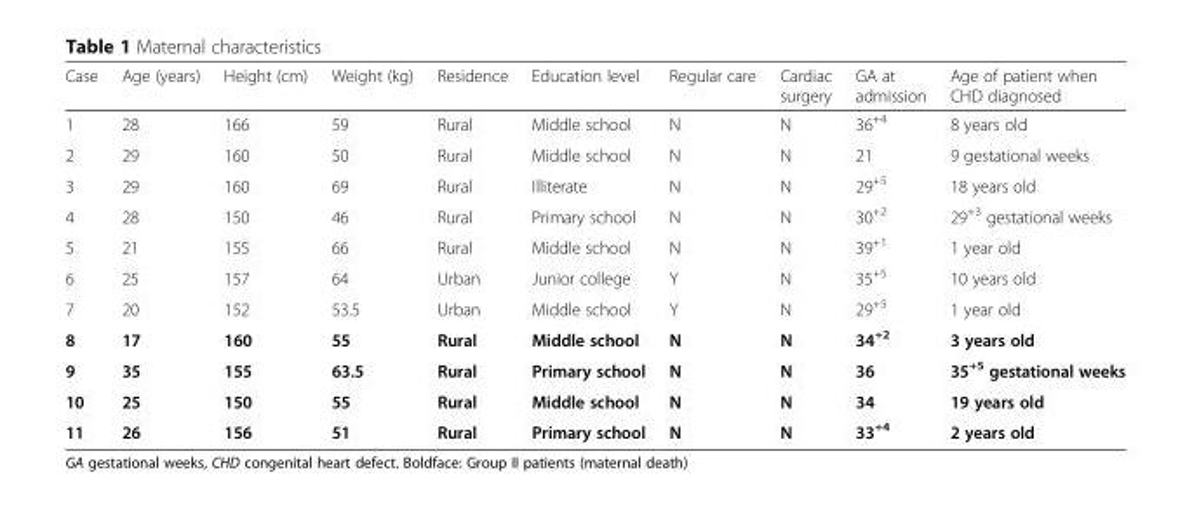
<table><thead><tr><td>Case</td><td>Age (years)</td><td>Height (cm)</td><td>Weight (kg)</td><td>Residence</td><td>Education level</td><td>Regular care</td><td>Cardiac surgery</td><td>GA at admission</td><td>Age of patient when CHD diagnosed</td></tr></thead><tbody><tr><td>1</td><td>28</td><td>166</td><td>59</td><td>Rural</td><td>Middle school</td><td>N</td><td>N</td><td>36<sup>+4</sup></td><td>8 years old</td></tr><tr><td>2</td><td>29</td><td>160</td><td>50</td><td>Rural</td><td>Middle school</td><td>N</td><td>N</td><td>21</td><td>9 gestational weeks</td></tr><tr><td>3</td><td>29</td><td>160</td><td>69</td><td>Rural</td><td>Illiterate</td><td>N</td><td>N</td><td>29<sup>+5</sup></td><td>18 years old</td></tr><tr><td>4</td><td>28</td><td>150</td><td>46</td><td>Rural</td><td>Primary school</td><td>N</td><td>N</td><td>30<sup>+2</sup></td><td>29<sup>+3</sup> gestational weeks</td></tr><tr><td>5</td><td>21</td><td>155</td><td>66</td><td>Rural</td><td>Middle school</td><td>N</td><td>N</td><td>39<sup>+1</sup></td><td>1 year old</td></tr><tr><td>6</td><td>25</td><td>157</td><td>64</td><td>Urban</td><td>Junior college</td><td>Y</td><td>N</td><td>35<sup>+5</sup></td><td>10 years old</td></tr><tr><td>7</td><td>20</td><td>152</td><td>53.5</td><td>Urban</td><td>Middle school</td><td>Y</td><td>N</td><td>29<sup>+5</sup></td><td>1 year old</td></tr><tr><td>8</td><td>17</td><td>160</td><td>55</td><td>Rural</td><td>Middle school</td><td>N</td><td>N</td><td>34<sup>+2</sup></td><td>3 years old</td></tr><tr><td>9</td><td>35</td><td>155</td><td>63.5</td><td>Rural</td><td>Primary school</td><td>N</td><td>N</td><td>36</td><td>35<sup>+5</sup> gestational weeks</td></tr><tr><td>10</td><td>25</td><td>150</td><td>55</td><td>Rural</td><td>Middle school</td><td>N</td><td>N</td><td>34</td><td>19 years old</td></tr><tr><td>11</td><td>26</td><td>156</td><td>51</td><td>Rural</td><td>Primary school</td><td>N</td><td>N</td><td>33<sup>+4</sup></td><td>2 years old</td></tr></tbody></table>